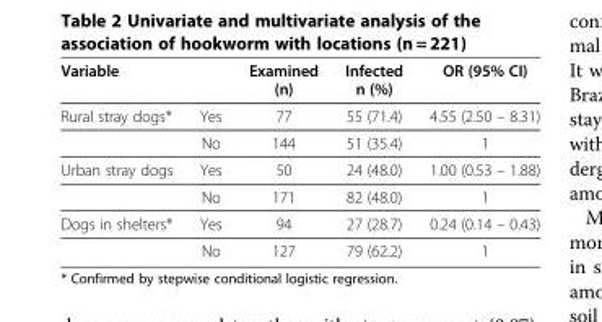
<table><thead><tr><td>Variable</td><td></td><td>Examined (n)</td><td>Infected n (%)</td><td>OR (95% CI)</td></tr></thead><tbody><tr><td rowspan="2">Rural stray dogs*</td><td>Yes</td><td>77</td><td>55 (71.4)</td><td>4.55 (2.50 – 8.31)</td></tr><tr><td>No</td><td>144</td><td>51 (35.4)</td><td>1</td></tr><tr><td rowspan="2">Urban stray dogs</td><td>Yes</td><td>50</td><td>24 (48.0)</td><td>1.00 (0.53 – 1.88)</td></tr><tr><td>No</td><td>171</td><td>82 (48.0)</td><td>1</td></tr><tr><td rowspan="2">Dogs in shelters*</td><td>Yes</td><td>94</td><td>27 (28.7)</td><td>0.24 (0.14 – 0.43)</td></tr><tr><td>No</td><td>127</td><td>79 (62.2)</td><td>1</td></tr></tbody></table>